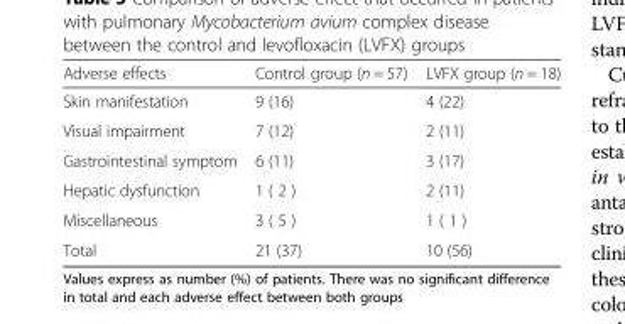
<table><thead><tr><td>Adverse effects</td><td>Control group (n = 57)</td><td>LVFX group (n = 18)</td></tr></thead><tbody><tr><td>Skin manifestation</td><td>9 (16)</td><td>4 (22)</td></tr><tr><td>Visual impairment</td><td>7 (12)</td><td>2 (11)</td></tr><tr><td>Gastrointestinal symptom</td><td>6 (11)</td><td>3 (17)</td></tr><tr><td>Hepatic dysfunction</td><td>1 ( 2 )</td><td>2 (11)</td></tr><tr><td>Miscellaneous</td><td>3 ( 5 )</td><td>1 ( 1 )</td></tr><tr><td>Total</td><td>21 (37)</td><td>10 (56)</td></tr></tbody></table>